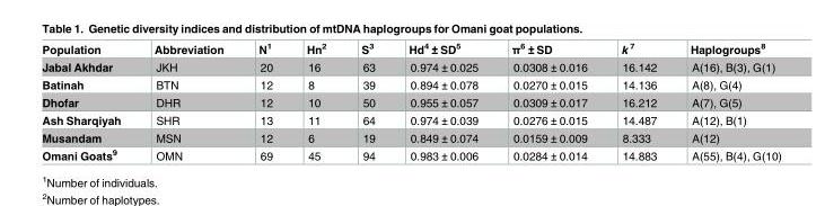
<table><thead><tr><td>Population</td><td>Abbreviation</td><td>N<sup>1</sup></td><td>Hn<sup>2</sup></td><td>S<sup>3</sup></td><td>Hd<sup>4</sup> ± SD<sup>5</sup></td><td>π<sup>6</sup> ± SD</td><td>k <sup>7</sup></td><td>Haplogroups<sup>8</sup></td></tr></thead><tbody><tr><td>Jabal Akhdar</td><td>JKH</td><td>20</td><td>16</td><td>63</td><td>0.974 ± 0.025</td><td>0.0308 ± 0.016</td><td>16.142</td><td>A(16), B(3), G(1)</td></tr><tr><td>Batinah</td><td>BTN</td><td>12</td><td>8</td><td>39</td><td>0.894 ± 0.078</td><td>0.0270 ± 0.015</td><td>14.136</td><td>A(8), G(4)</td></tr><tr><td>Dhofar</td><td>DHR</td><td>12</td><td>10</td><td>50</td><td>0.955 ± 0.057</td><td>0.0309 ± 0.017</td><td>16.212</td><td>A(7), G(5)</td></tr><tr><td>Ash Sharqiyah</td><td>SHR</td><td>13</td><td>11</td><td>64</td><td>0.974 ± 0.039</td><td>0.0276 ± 0.015</td><td>14.487</td><td>A(12), B(1)</td></tr><tr><td>Musandam</td><td>MSN</td><td>12</td><td>6</td><td>19</td><td>0.849 ± 0.074</td><td>0.0159 ± 0.009</td><td>8.333</td><td>A(12)</td></tr><tr><td>Omani Goats9</td><td>OMN</td><td>69</td><td>45</td><td>94</td><td>0.983 ± 0.006</td><td>0.0284 ± 0.014</td><td>14.883</td><td>A(55), B(4), G(10)</td></tr></tbody></table>